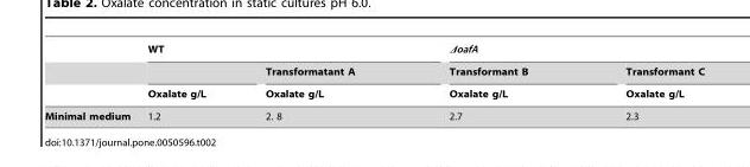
<table><thead><tr><td rowspan="3"></td><td colspan="2">WT</td><td colspan="2">ΔoafA</td></tr><tr><td rowspan="2">Oxalate g/L</td><td rowspan="2">Transformatant A Oxalate g/L</td><td rowspan="2">Transformant B Oxalate g/L</td><td rowspan="2">Transformant C Oxalate g/L</td></tr><tr></tr></thead><tbody><tr><td>Minimal medium</td><td>1.2</td><td>2. 8</td><td>2.7</td><td>2.3</td></tr></tbody></table>